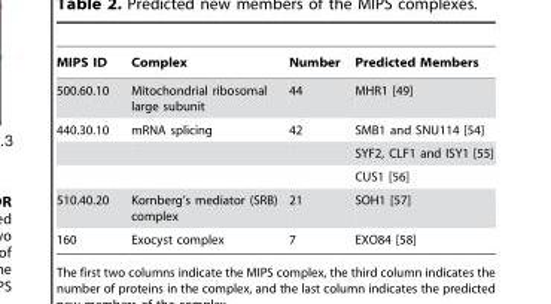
<table><thead><tr><td>MIPS ID</td><td>Complex</td><td>Number</td><td>Predicted Members</td></tr></thead><tbody><tr><td>500.60.10</td><td>Mitochondrial ribosomal large subunit</td><td>44</td><td>MHR1 [49]</td></tr><tr><td rowspan="3">440.30.10</td><td>mRNA splicing</td><td>42</td><td>SMB1 and SNU114 [54]</td></tr><tr><td></td><td></td><td>SYF2, CLF1 and ISY1 [55]</td></tr><tr><td></td><td></td><td>CUS1 [56]</td></tr><tr><td>510.40.20</td><td>Kornberg’s mediator (SRB) complex</td><td>21</td><td>SOH1 [57]</td></tr><tr><td>160</td><td>Exocyst complex</td><td>7</td><td>EXO84 [58]</td></tr></tbody></table>